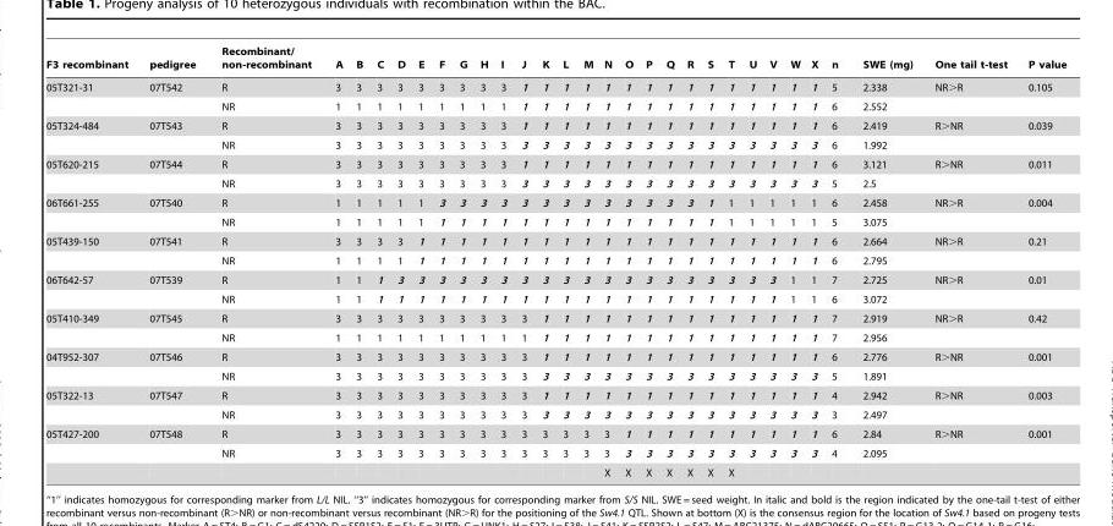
<table><thead><tr><td>F3 recombinant</td><td>pedigree</td><td>Recombinant/ non-recombinant</td><td>A</td><td>B</td><td>C</td><td>D</td><td>E</td><td>F</td><td>G</td><td>H</td><td>I</td><td>J</td><td>K</td><td>L</td><td>M</td><td>N</td><td>O</td><td>P</td><td>Q</td><td>R</td><td>S</td><td>T</td><td>U</td><td>V</td><td>W</td><td>X</td><td>n</td><td>SWE (mg)</td><td>One tail t-test</td><td>P value</td></tr></thead><tbody><tr><td rowspan="2">05T321-31</td><td>07T542</td><td>R</td><td>3</td><td>3</td><td>3</td><td>3</td><td>3</td><td>3</td><td>3</td><td>3</td><td>3</td><td>1</td><td>1</td><td>1</td><td>1</td><td>1</td><td>1</td><td>1</td><td>1</td><td>1</td><td>1</td><td>1</td><td>1</td><td>1</td><td>1</td><td>1</td><td>5</td><td>2.338</td><td>NR&gt;R</td><td>0.105</td></tr><tr><td></td><td>NR</td><td>1</td><td>1</td><td>1</td><td>1</td><td>1</td><td>1</td><td>1</td><td>1</td><td>1</td><td>1</td><td>1</td><td>1</td><td>1</td><td>1</td><td>1</td><td>1</td><td>1</td><td>1</td><td>1</td><td>1</td><td>1</td><td>1</td><td>1</td><td>1</td><td>6</td><td>2.552</td><td></td><td></td></tr><tr><td rowspan="2">05T324-484</td><td>07T543</td><td>R</td><td>3</td><td>3</td><td>3</td><td>3</td><td>3</td><td>3</td><td>3</td><td>3</td><td>3</td><td>1</td><td>1</td><td>1</td><td>1</td><td>1</td><td>1</td><td>1</td><td>1</td><td>1</td><td>1</td><td>1</td><td>1</td><td>1</td><td>1</td><td>1</td><td>6</td><td>2.419</td><td>R&gt;NR</td><td>0.039</td></tr><tr><td></td><td>NR</td><td>3</td><td>3</td><td>3</td><td>3</td><td>3</td><td>3</td><td>3</td><td>3</td><td>3</td><td>3</td><td>3</td><td>3</td><td>3</td><td>3</td><td>3</td><td>3</td><td>3</td><td>3</td><td>3</td><td>3</td><td>3</td><td>3</td><td>3</td><td>3</td><td>6</td><td>1.992</td><td></td><td></td></tr><tr><td rowspan="2">05T620-215</td><td>07T544</td><td>R</td><td>3</td><td>3</td><td>3</td><td>3</td><td>3</td><td>3</td><td>3</td><td>3</td><td>3</td><td>1</td><td>1</td><td>1</td><td>1</td><td>1</td><td>1</td><td>1</td><td>1</td><td>1</td><td>1</td><td>1</td><td>1</td><td>1</td><td>1</td><td>1</td><td>6</td><td>3.121</td><td>R&gt;NR</td><td>0.011</td></tr><tr><td></td><td>NR</td><td>3</td><td>3</td><td>3</td><td>3</td><td>3</td><td>3</td><td>3</td><td>3</td><td>3</td><td>3</td><td>3</td><td>3</td><td>3</td><td>3</td><td>3</td><td>3</td><td>3</td><td>3</td><td>3</td><td>3</td><td>3</td><td>3</td><td>3</td><td>3</td><td>5</td><td>2.5</td><td></td><td></td></tr><tr><td rowspan="2">06T661-255</td><td>07T540</td><td>R</td><td>1</td><td>1</td><td>1</td><td>1</td><td>1</td><td>3</td><td>3</td><td>3</td><td>3</td><td>3</td><td>3</td><td>3</td><td>3</td><td>3</td><td>3</td><td>3</td><td>3</td><td>3</td><td>1</td><td>1</td><td>1</td><td>1</td><td>1</td><td>1</td><td>6</td><td>2.458</td><td>NR&gt;R</td><td>0.004</td></tr><tr><td></td><td>NR</td><td>1</td><td>1</td><td>1</td><td>1</td><td>1</td><td>1</td><td>1</td><td>1</td><td>1</td><td>1</td><td>1</td><td>1</td><td>1</td><td>1</td><td>1</td><td>1</td><td>1</td><td>1</td><td>1</td><td>1</td><td>1</td><td>1</td><td>1</td><td>1</td><td>5</td><td>3.075</td><td></td><td></td></tr><tr><td rowspan="2">05T439-150</td><td>07T541</td><td>R</td><td>3</td><td>3</td><td>3</td><td>3</td><td>1</td><td>1</td><td>1</td><td>1</td><td>1</td><td>1</td><td>1</td><td>1</td><td>1</td><td>1</td><td>1</td><td>1</td><td>1</td><td>1</td><td>1</td><td>1</td><td>1</td><td>1</td><td>1</td><td>1</td><td>6</td><td>2.664</td><td>NR&gt;R</td><td>0.21</td></tr><tr><td></td><td>NR</td><td>1</td><td>1</td><td>1</td><td>1</td><td>1</td><td>1</td><td>1</td><td>1</td><td>1</td><td>1</td><td>1</td><td>1</td><td>1</td><td>1</td><td>1</td><td>1</td><td>1</td><td>1</td><td>1</td><td>1</td><td>1</td><td>1</td><td>1</td><td>1</td><td>6</td><td>2.795</td><td></td><td></td></tr><tr><td rowspan="2">06T642-57</td><td>07T539</td><td>R</td><td>1</td><td>1</td><td>1</td><td>3</td><td>3</td><td>3</td><td>3</td><td>3</td><td>3</td><td>3</td><td>3</td><td>3</td><td>3</td><td>3</td><td>3</td><td>3</td><td>3</td><td>3</td><td>3</td><td>3</td><td>3</td><td>3</td><td>1</td><td>1</td><td>7</td><td>2.725</td><td>NR&gt;R</td><td>0.01</td></tr><tr><td></td><td>NR</td><td>1</td><td>1</td><td>1</td><td>1</td><td>1</td><td>1</td><td>1</td><td>1</td><td>1</td><td>1</td><td>1</td><td>1</td><td>1</td><td>1</td><td>1</td><td>1</td><td>1</td><td>1</td><td>1</td><td>1</td><td>1</td><td>1</td><td>1</td><td>1</td><td>6</td><td>3.072</td><td></td><td></td></tr><tr><td rowspan="2">05T410-349</td><td>07T545</td><td>R</td><td>3</td><td>3</td><td>3</td><td>3</td><td>3</td><td>3</td><td>3</td><td>3</td><td>3</td><td>3</td><td>1</td><td>1</td><td>1</td><td>1</td><td>1</td><td>1</td><td>1</td><td>1</td><td>1</td><td>1</td><td>1</td><td>1</td><td>1</td><td>1</td><td>7</td><td>2.919</td><td>NR&gt;R</td><td>0.42</td></tr><tr><td></td><td>NR</td><td>1</td><td>1</td><td>1</td><td>1</td><td>1</td><td>1</td><td>1</td><td>1</td><td>1</td><td>1</td><td>1</td><td>1</td><td>1</td><td>1</td><td>1</td><td>1</td><td>1</td><td>1</td><td>1</td><td>1</td><td>1</td><td>1</td><td>1</td><td>1</td><td>7</td><td>2.956</td><td></td><td></td></tr><tr><td rowspan="2">04T952-307</td><td>07T546</td><td>R</td><td>3</td><td>3</td><td>3</td><td>3</td><td>3</td><td>3</td><td>3</td><td>3</td><td>3</td><td>3</td><td>1</td><td>1</td><td>1</td><td>1</td><td>1</td><td>1</td><td>1</td><td>1</td><td>1</td><td>1</td><td>1</td><td>1</td><td>1</td><td>1</td><td>6</td><td>2.776</td><td>R&gt;NR</td><td>0.001</td></tr><tr><td></td><td>NR</td><td>3</td><td>3</td><td>3</td><td>3</td><td>3</td><td>3</td><td>3</td><td>3</td><td>3</td><td>3</td><td>3</td><td>3</td><td>3</td><td>3</td><td>3</td><td>3</td><td>3</td><td>3</td><td>3</td><td>3</td><td>3</td><td>3</td><td>3</td><td>3</td><td>5</td><td>1.891</td><td></td><td></td></tr><tr><td rowspan="2">05T322-13</td><td>07T547</td><td>R</td><td>3</td><td>3</td><td>3</td><td>3</td><td>3</td><td>3</td><td>3</td><td>3</td><td>3</td><td>3</td><td>1</td><td>1</td><td>1</td><td>1</td><td>1</td><td>1</td><td>1</td><td>1</td><td>1</td><td>1</td><td>1</td><td>1</td><td>1</td><td>1</td><td>4</td><td>2.942</td><td>R&gt;NR</td><td>0.003</td></tr><tr><td></td><td>NR</td><td>3</td><td>3</td><td>3</td><td>3</td><td>3</td><td>3</td><td>3</td><td>3</td><td>3</td><td>3</td><td>3</td><td>3</td><td>3</td><td>3</td><td>3</td><td>3</td><td>3</td><td>3</td><td>3</td><td>3</td><td>3</td><td>3</td><td>3</td><td>3</td><td>3</td><td>2.497</td><td></td><td></td></tr><tr><td rowspan="3">05T427-200</td><td>07T548</td><td>R</td><td>3</td><td>3</td><td>3</td><td>3</td><td>3</td><td>3</td><td>3</td><td>3</td><td>3</td><td>3</td><td>3</td><td>3</td><td>3</td><td>3</td><td>1</td><td>1</td><td>1</td><td>1</td><td>1</td><td>1</td><td>1</td><td>1</td><td>1</td><td>1</td><td>6</td><td>2.84</td><td>R&gt;NR</td><td>0.001</td></tr><tr><td></td><td>NR</td><td>3</td><td>3</td><td>3</td><td>3</td><td>3</td><td>3</td><td>3</td><td>3</td><td>3</td><td>3</td><td>3</td><td>3</td><td>3</td><td>3</td><td>3</td><td>3</td><td>3</td><td>3</td><td>3</td><td>3</td><td>3</td><td>3</td><td>3</td><td>3</td><td>4</td><td>2.095</td><td></td><td></td></tr><tr><td></td><td></td><td></td><td></td><td></td><td></td><td></td><td></td><td></td><td></td><td></td><td></td><td></td><td></td><td></td><td>X</td><td>X</td><td>X</td><td>X</td><td>X</td><td>X</td><td>X</td><td></td><td></td><td></td><td></td><td></td><td></td><td></td><td></td></tr></tbody></table>